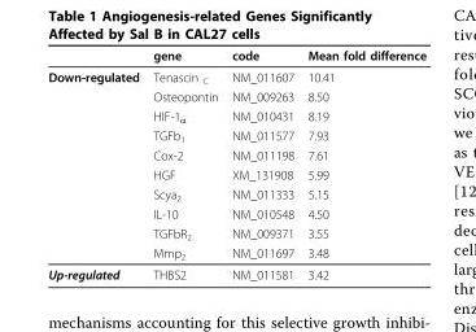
<table><thead><tr><td></td><td>gene</td><td>code</td><td>Mean fold difference</td></tr></thead><tbody><tr><td rowspan="10">Down-regulated</td><td>Tenascin <sub>C</sub></td><td>NM_011607</td><td>10.41</td></tr><tr><td>Osteopontin</td><td>NM_009263</td><td>8.50</td></tr><tr><td>HIF-1<sub>α</sub></td><td>NM_010431</td><td>8.19</td></tr><tr><td>TGFb<sub>1</sub></td><td>NM_011577</td><td>7.93</td></tr><tr><td>Cox-2</td><td>NM_011198</td><td>7.61</td></tr><tr><td>HGF</td><td>XM_131908</td><td>5.99</td></tr><tr><td>Scya<sub>2</sub></td><td>NM_011333</td><td>5.15</td></tr><tr><td>IL-10</td><td>NM_010548</td><td>4.50</td></tr><tr><td>TGFbR<sub>2</sub></td><td>NM_009371</td><td>3.55</td></tr><tr><td>Mmp<sub>2</sub></td><td>NM_011697</td><td>3.48</td></tr><tr><td>Up-regulated</td><td>THBS2</td><td>NM_011581</td><td>3.42</td></tr></tbody></table>